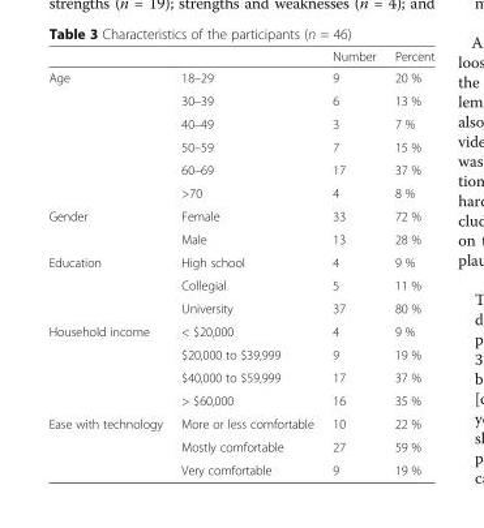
<table><thead><tr><td></td><td></td><td>Number</td><td>Percent</td></tr></thead><tbody><tr><td rowspan="6">Age</td><td>18–29</td><td>9</td><td>20 %</td></tr><tr><td>30–39</td><td>6</td><td>13 %</td></tr><tr><td>40–49</td><td>3</td><td>7 %</td></tr><tr><td>50–59</td><td>7</td><td>15 %</td></tr><tr><td>60–69</td><td>17</td><td>37 %</td></tr><tr><td>&gt;70</td><td>4</td><td>8 %</td></tr><tr><td rowspan="2">Gender</td><td>Female</td><td>33</td><td>72 %</td></tr><tr><td>Male</td><td>13</td><td>28 %</td></tr><tr><td rowspan="3">Education</td><td>High school</td><td>4</td><td>9 %</td></tr><tr><td>Collegial</td><td>5</td><td>11 %</td></tr><tr><td>University</td><td>37</td><td>80 %</td></tr><tr><td rowspan="4">Household income</td><td>&lt; $20,000</td><td>4</td><td>9 %</td></tr><tr><td>$20,000 to $39,999</td><td>9</td><td>19 %</td></tr><tr><td>$40,000 to $59,999</td><td>17</td><td>37 %</td></tr><tr><td>&gt; $60,000</td><td>16</td><td>35 %</td></tr><tr><td rowspan="3">Ease with technology</td><td>More or less comfortable</td><td>10</td><td>22 %</td></tr><tr><td>Mostly comfortable</td><td>27</td><td>59 %</td></tr><tr><td>Very comfortable</td><td>9</td><td>19 %</td></tr></tbody></table>